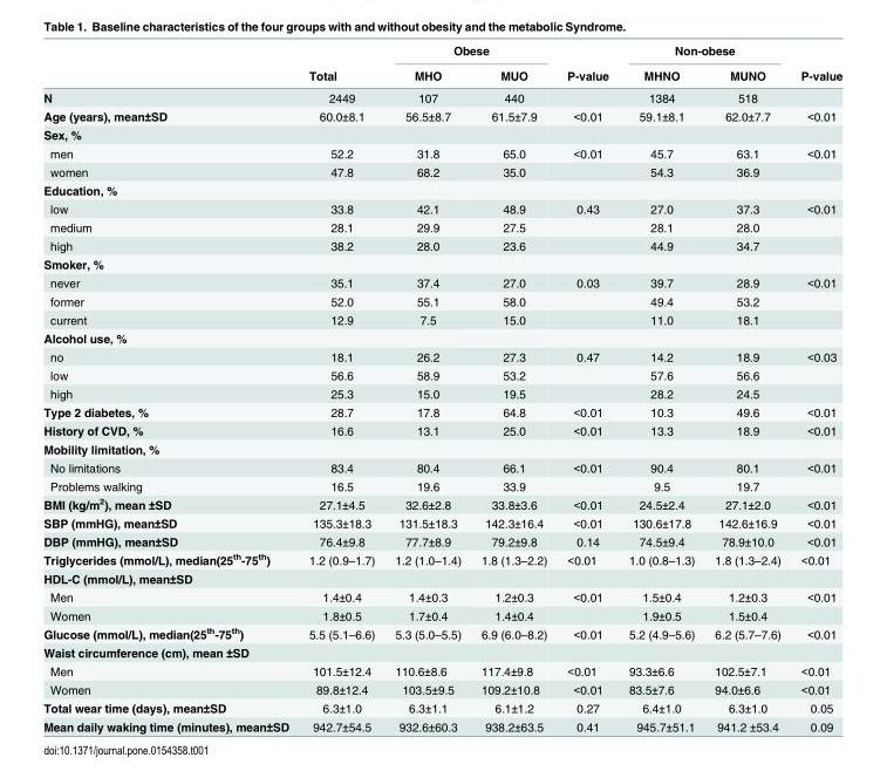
<table><thead><tr><td rowspan="2"></td><td rowspan="2">Total</td><td colspan="2">Obese</td><td rowspan="2">P-value</td><td colspan="2">Non-obese</td><td rowspan="2">P-value</td></tr><tr><td>MHO</td><td>MUO</td><td>MHNO</td><td>MUNO</td></tr></thead><tbody><tr><td>N</td><td>2449</td><td>107</td><td>440</td><td></td><td>1384</td><td>518</td><td></td></tr><tr><td>Age (years), mean±SD</td><td>60.0±8.1</td><td>56.5±8.7</td><td>61.5±7.9</td><td>&lt;0.01</td><td>59.1±8.1</td><td>62.0±7.7</td><td>&lt;0.01</td></tr><tr><td colspan="8">Sex, %</td></tr><tr><td>men</td><td>52.2</td><td>31.8</td><td>65.0</td><td>&lt;0.01</td><td>45.7</td><td>63.1</td><td>&lt;0.01</td></tr><tr><td>women</td><td>47.8</td><td>68.2</td><td>35.0</td><td></td><td>54.3</td><td>36.9</td><td></td></tr><tr><td colspan="8">Education, %</td></tr><tr><td>low</td><td>33.8</td><td>42.1</td><td>48.9</td><td>0.43</td><td>27.0</td><td>37.3</td><td>&lt;0.01</td></tr><tr><td>medium</td><td>28.1</td><td>29.9</td><td>27.5</td><td></td><td>28.1</td><td>28.0</td><td></td></tr><tr><td>high</td><td>38.2</td><td>28.0</td><td>23.6</td><td></td><td>44.9</td><td>34.7</td><td></td></tr><tr><td colspan="8">Smoker, %</td></tr><tr><td>never</td><td>35.1</td><td>37.4</td><td>27.0</td><td>0.03</td><td>39.7</td><td>28.9</td><td>&lt;0.01</td></tr><tr><td>former</td><td>52.0</td><td>55.1</td><td>58.0</td><td></td><td>49.4</td><td>53.2</td><td></td></tr><tr><td>current</td><td>12.9</td><td>7.5</td><td>15.0</td><td></td><td>11.0</td><td>18.1</td><td></td></tr><tr><td colspan="8">Alcohol use, %</td></tr><tr><td>no</td><td>18.1</td><td>26.2</td><td>27.3</td><td>0.47</td><td>14.2</td><td>18.9</td><td>&lt;0.03</td></tr><tr><td>low</td><td>56.6</td><td>58.9</td><td>53.2</td><td></td><td>57.6</td><td>56.6</td><td></td></tr><tr><td>high</td><td>25.3</td><td>15.0</td><td>19.5</td><td></td><td>28.2</td><td>24.5</td><td></td></tr><tr><td>Type 2 diabetes, %</td><td>28.7</td><td>17.8</td><td>64.8</td><td>&lt;0.01</td><td>10.3</td><td>49.6</td><td>&lt;0.01</td></tr><tr><td>History of CVD, %</td><td>16.6</td><td>13.1</td><td>25.0</td><td>&lt;0.01</td><td>13.3</td><td>18.9</td><td>&lt;0.01</td></tr><tr><td colspan="8">Mobility limitation, %</td></tr><tr><td>No limitations</td><td>83.4</td><td>80.4</td><td>66.1</td><td>&lt;0.01</td><td>90.4</td><td>80.1</td><td>&lt;0.01</td></tr><tr><td>Problems walking</td><td>16.5</td><td>19.6</td><td>33.9</td><td></td><td>9.5</td><td>19.7</td><td></td></tr><tr><td>BMI (kg/m<sup>2</sup>), mean ±SD</td><td>27.1±4.5</td><td>32.6±2.8</td><td>33.8±3.6</td><td>&lt;0.01</td><td>24.5±2.4</td><td>27.1±2.0</td><td>&lt;0.01</td></tr><tr><td>SBP (mmHG), mean±SD</td><td>135.3±18.3</td><td>131.5±18.3</td><td>142.3±16.4</td><td>&lt;0.01</td><td>130.6±17.8</td><td>142.6±16.9</td><td>&lt;0.01</td></tr><tr><td>DBP (mmHG), mean±SD</td><td>76.4±9.8</td><td>77.7±8.9</td><td>79.2±9.8</td><td>0.14</td><td>74.5±9.4</td><td>78.9±10.0</td><td>&lt;0.01</td></tr><tr><td>Triglycerides (mmol/L), median(25<sup>th</sup>-75<sup>th</sup>)</td><td>1.2 (0.9–1.7)</td><td>1.2 (1.0–1.4)</td><td>1.8 (1.3–2.2)</td><td>&lt;0.01</td><td>1.0 (0.8–1.3)</td><td>1.8 (1.3–2.4)</td><td>&lt;0.01</td></tr><tr><td colspan="8">HDL-C (mmol/L), mean±SD</td></tr><tr><td>Men</td><td>1.4±0.4</td><td>1.4±0.3</td><td>1.2±0.3</td><td>&lt;0.01</td><td>1.5±0.4</td><td>1.2±0.3</td><td>&lt;0.01</td></tr><tr><td>Women</td><td>1.8±0.5</td><td>1.7±0.4</td><td>1.4±0.4</td><td></td><td>1.9±0.5</td><td>1.5±0.4</td><td></td></tr><tr><td>Glucose (mmol/L), median(25<sup>th</sup>-75<sup>th</sup>)</td><td>5.5 (5.1–6.6)</td><td>5.3 (5.0–5.5)</td><td>6.9 (6.0–8.2)</td><td>&lt;0.01</td><td>5.2 (4.9–5.6)</td><td>6.2 (5.7–7.6)</td><td>&lt;0.01</td></tr><tr><td colspan="8">Waist circumference (cm), mean ±SD</td></tr><tr><td>Men</td><td>101.5±12.4</td><td>110.6±8.6</td><td>117.4±9.8</td><td>&lt;0.01</td><td>93.3±6.6</td><td>102.5±7.1</td><td>&lt;0.01</td></tr><tr><td>Women</td><td>89.8±12.4</td><td>103.5±9.5</td><td>109.2±10.8</td><td>&lt;0.01</td><td>83.5±7.6</td><td>94.0±6.6</td><td>&lt;0.01</td></tr><tr><td>Total wear time (days), mean±SD</td><td>6.3±1.0</td><td>6.3±1.1</td><td>6.1±1.2</td><td>0.27</td><td>6.4±1.0</td><td>6.3±1.0</td><td>0.05</td></tr><tr><td>Mean daily waking time (minutes), mean±SD</td><td>942.7±54.5</td><td>932.6±60.3</td><td>938.2±63.5</td><td>0.41</td><td>945.7±51.1</td><td>941.2 ±53.4</td><td>0.09</td></tr></tbody></table>